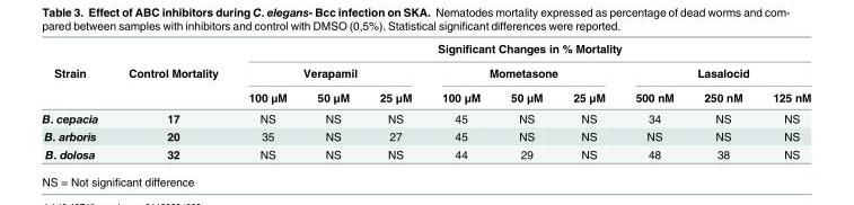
<table><thead><tr><td rowspan="3">Strain</td><td rowspan="3">Control Mortality</td><td colspan="9">Significant Changes in % Mortality</td></tr><tr><td colspan="3">Verapamil</td><td colspan="3">Mometasone</td><td colspan="3">Lasalocid</td></tr><tr><td>100 μM</td><td>50 μM</td><td>25 μM</td><td>100 μM</td><td>50 μM</td><td>25 μM</td><td>500 nM</td><td>250 nM</td><td>125 nM</td></tr></thead><tbody><tr><td>B. cepacia</td><td>17</td><td>NS</td><td>NS</td><td>NS</td><td>45</td><td>NS</td><td>NS</td><td>34</td><td>NS</td><td>NS</td></tr><tr><td>B. arboris</td><td>20</td><td>35</td><td>NS</td><td>27</td><td>45</td><td>NS</td><td>NS</td><td>NS</td><td>NS</td><td>NS</td></tr><tr><td>B. dolosa</td><td>32</td><td>NS</td><td>NS</td><td>NS</td><td>44</td><td>29</td><td>NS</td><td>48</td><td>38</td><td>NS</td></tr></tbody></table>